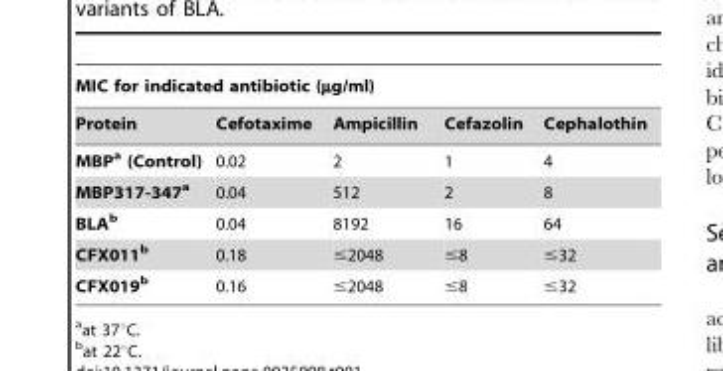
<table><thead><tr><td colspan="5">MIC for indicated antibiotic (µg/ml)</td></tr><tr><td>Protein</td><td>Cefotaxime</td><td>Ampicillin</td><td>Cefazolin</td><td>Cephalothin</td></tr></thead><tbody><tr><td>MBPa (Control)</td><td>0.02</td><td>2</td><td>1</td><td>4</td></tr><tr><td>MBP317-347a</td><td>0.04</td><td>512</td><td>2</td><td>8</td></tr><tr><td>BLAb</td><td>0.04</td><td>8192</td><td>16</td><td>64</td></tr><tr><td>CFX011b</td><td>0.18</td><td>≤2048</td><td>≤8</td><td>≤32</td></tr><tr><td>CFX019b</td><td>0.16</td><td>≤2048</td><td>≤8</td><td>≤32</td></tr></tbody></table>